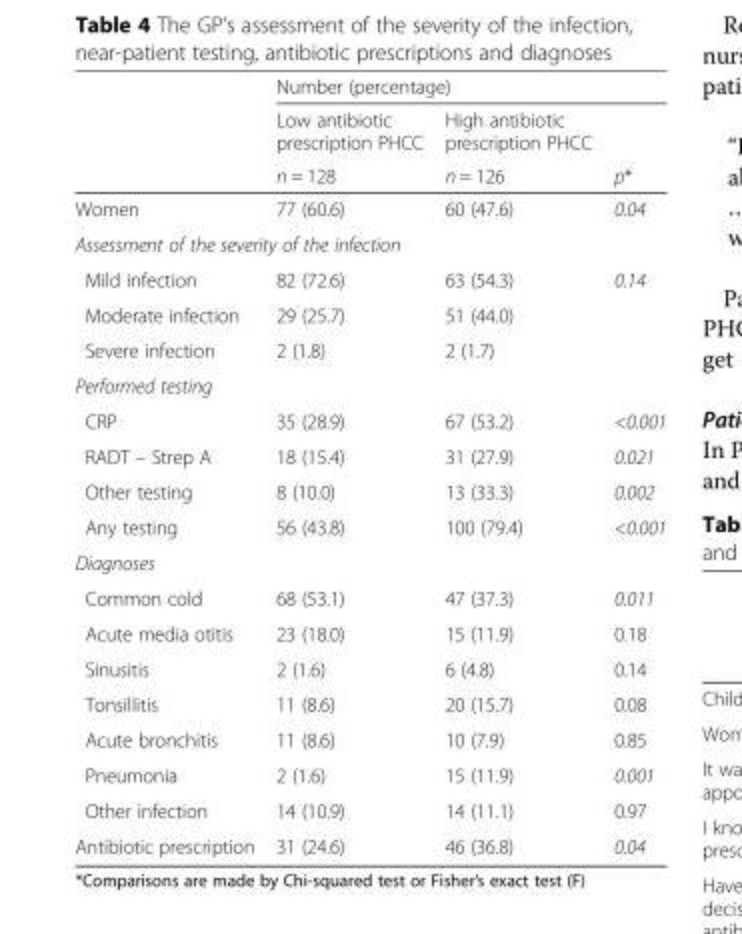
<table><thead><tr><td rowspan="3"></td><td colspan="3">Number (percentage)</td></tr><tr><td rowspan="2">Low antibiotic prescription PHCC n = 128</td><td rowspan="2">High antibiotic prescription PHCC n = 126</td><td rowspan="2">p*</td></tr><tr></tr></thead><tbody><tr><td>Women</td><td>77 (60.6)</td><td>60 (47.6)</td><td>0.04</td></tr><tr><td colspan="4">Assessment of the severity of the infection</td></tr><tr><td>Mild infection</td><td>82 (72.6)</td><td>63 (54.3)</td><td rowspan="3">0.14</td></tr><tr><td>Moderate infection</td><td>29 (25.7)</td><td>51 (44.0)</td></tr><tr><td>Severe infection</td><td>2 (1.8)</td><td>2 (1.7)</td></tr><tr><td colspan="4">Performed testing</td></tr><tr><td>CRP</td><td>35 (28.9)</td><td>67 (53.2)</td><td>&lt;0.001</td></tr><tr><td>RADT – Strep A</td><td>18 (15.4)</td><td>31 (27.9)</td><td>0.021</td></tr><tr><td>Other testing</td><td>8 (10.0)</td><td>13 (33.3)</td><td>0.002</td></tr><tr><td>Any testing</td><td>56 (43.8)</td><td>100 (79.4)</td><td>&lt;0.001</td></tr><tr><td colspan="4">Diagnoses</td></tr><tr><td>Common cold</td><td>68 (53.1)</td><td>47 (37.3)</td><td>0.011</td></tr><tr><td>Acute media otitis</td><td>23 (18.0)</td><td>15 (11.9)</td><td>0.18</td></tr><tr><td>Sinusitis</td><td>2 (1.6)</td><td>6 (4.8)</td><td>0.14</td></tr><tr><td>Tonsillitis</td><td>11 (8.6)</td><td>20 (15.7)</td><td>0.08</td></tr><tr><td>Acute bronchitis</td><td>11 (8.6)</td><td>10 (7.9)</td><td>0.85</td></tr><tr><td>Pneumonia</td><td>2 (1.6)</td><td>15 (11.9)</td><td>0.001</td></tr><tr><td>Other infection</td><td>14 (10.9)</td><td>14 (11.1)</td><td>0.97</td></tr><tr><td>Antibiotic prescription</td><td>31 (24.6)</td><td>46 (36.8)</td><td>0.04</td></tr></tbody></table>